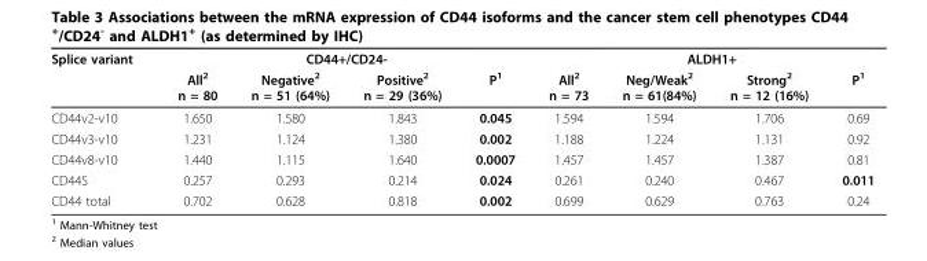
<table><thead><tr><td rowspan="2">Splice variant</td><td colspan="4">CD44+/CD24-</td><td colspan="4">ALDH1+</td></tr><tr><td>All<sup>2</sup> n = 80</td><td>Negative<sup>2</sup> n = 51 (64%)</td><td>Positive<sup>2</sup> n = 29 (36%)</td><td>P<sup>1</sup></td><td>All<sup>2</sup> n = 73</td><td>Neg/Weak<sup>2</sup> n = 61(84%)</td><td>Strong<sup>2</sup> n = 12 (16%)</td><td>P<sup>1</sup></td></tr></thead><tbody><tr><td>CD44v2-v10</td><td>1.650</td><td>1.580</td><td>1.843</td><td>0.045</td><td>1.594</td><td>1.594</td><td>1.706</td><td>0.69</td></tr><tr><td>CD44v3-v10</td><td>1.231</td><td>1.124</td><td>1.380</td><td>0.002</td><td>1.188</td><td>1.224</td><td>1.131</td><td>0.92</td></tr><tr><td>CD44v8-v10</td><td>1.440</td><td>1.115</td><td>1.640</td><td>0.0007</td><td>1.457</td><td>1.457</td><td>1.387</td><td>0.81</td></tr><tr><td>CD44S</td><td>0.257</td><td>0.293</td><td>0.214</td><td>0.024</td><td>0.261</td><td>0.240</td><td>0.467</td><td>0.011</td></tr><tr><td>CD44 total</td><td>0.702</td><td>0.628</td><td>0.818</td><td>0.002</td><td>0.699</td><td>0.629</td><td>0.763</td><td>0.24</td></tr></tbody></table>